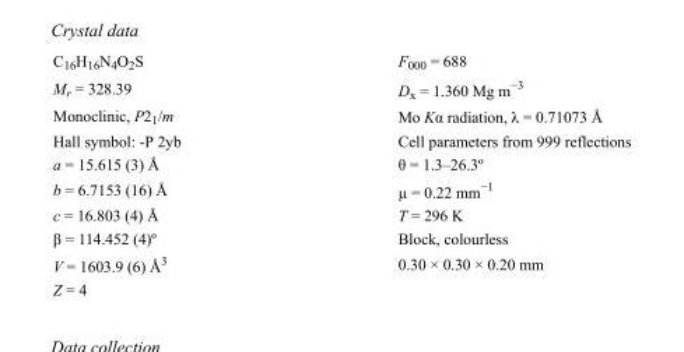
<table><tbody><tr><td>C<sub>16</sub>H<sub>16</sub>N<sub>4</sub>O<sub>2</sub>S</td><td>F000 = 688</td></tr><tr><td>M<sub>r</sub> = 328.39</td><td>D<sub>x</sub> = 1.360 Mg m<sup>−3</sup></td></tr><tr><td>Monoclinic, P2<sub>1</sub>/m</td><td>Mo Kα radiation, λ = 0.71073 Å</td></tr><tr><td>Hall symbol: -P 2yb</td><td>Cell parameters from 999 reflections</td></tr><tr><td>a = 15.615 (3) Å</td><td>θ = 1.3–26.3º</td></tr><tr><td>b = 6.7153 (16) Å</td><td>µ = 0.22 mm<sup>−1</sup></td></tr><tr><td>c = 16.803 (4) Å</td><td>T = 296 K</td></tr><tr><td>β = 114.452 (4)º</td><td>Block, colourless</td></tr><tr><td>V = 1603.9 (6) Å<sup>3</sup></td><td>0.30 × 0.30 × 0.20 mm</td></tr><tr><td>Z = 4</td><td></td></tr></tbody></table>